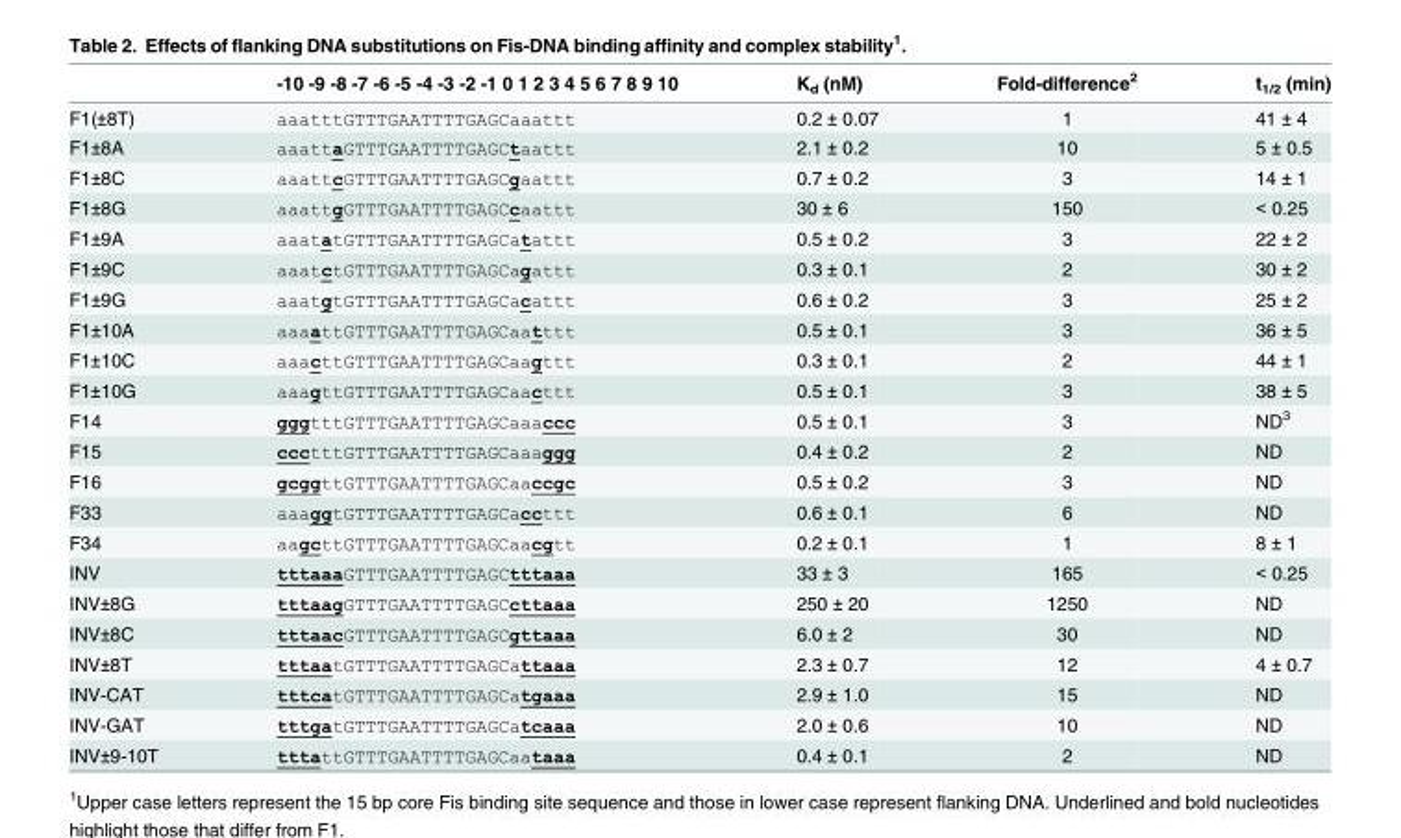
<table><thead><tr><td></td><td>-10 -9 -8 -7 -6 -5 -4 -3 -2 -1 0 1 2 3 4 5 6 7 8 9 10</td><td>K<sub>d</sub> (nM)</td><td>Fold-difference<sup>2</sup></td><td>t<sub>1/2</sub> (min)</td></tr></thead><tbody><tr><td>F1(±8T)</td><td>aaatttGTTTGAATTTTGAGCaaattt</td><td>0.2 ± 0.07</td><td>1</td><td>41 ± 4</td></tr><tr><td>F1±8A</td><td>aaattaGTTTGAATTTTGAGCtaattt</td><td>2.1 ± 0.2</td><td>10</td><td>5 ± 0.5</td></tr><tr><td>F1±8C</td><td>aaattcGTTTGAATTTTGAGCgaattt</td><td>0.7 ± 0.2</td><td>3</td><td>14 ± 1</td></tr><tr><td>F1±8G</td><td>aaattgGTTTGAATTTTGAGCcaattt</td><td>30 ± 6</td><td>150</td><td>&lt; 0.25</td></tr><tr><td>F1±9A</td><td>aaatatGTTTGAATTTTGAGCatattt</td><td>0.5 ± 0.2</td><td>3</td><td>22 ± 2</td></tr><tr><td>F1±9C</td><td>aaatctGTTTGAATTTTGAGCagattt</td><td>0.3 ± 0.1</td><td>2</td><td>30 ± 2</td></tr><tr><td>F1±9G</td><td>aaatgtGTTTGAATTTTGAGCacattt</td><td>0.6 ± 0.2</td><td>3</td><td>25 ± 2</td></tr><tr><td>F1±10A</td><td>aaaattGTTTGAATTTTGAGCaatttt</td><td>0.5 ± 0.1</td><td>3</td><td>36 ± 5</td></tr><tr><td>F1±10C</td><td>aaacttGTTTGAATTTTGAGCaagttt</td><td>0.3 ± 0.1</td><td>2</td><td>44 ± 1</td></tr><tr><td>F1±10G</td><td>aaagttGTTTGAATTTTGAGCaacttt</td><td>0.5 ± 0.1</td><td>3</td><td>38 ± 5</td></tr><tr><td>F14</td><td>gggtttGTTTGAATTTTGAGCaaaccc</td><td>0.5 ± 0.1</td><td>3</td><td>ND<sup>3</sup></td></tr><tr><td>F15</td><td>ccctttGTTTGAATTTTGAGCaaaggg</td><td>0.4 ± 0.2</td><td>2</td><td>ND</td></tr><tr><td>F16</td><td>gcggttGTTTGAATTTTGAGCaaccgc</td><td>0.5 ± 0.2</td><td>3</td><td>ND</td></tr><tr><td>F33</td><td>aaaggtGTTTGAATTTTGAGCaccttt</td><td>0.6 ± 0.1</td><td>6</td><td>ND</td></tr><tr><td>F34</td><td>aagcttGTTTGAATTTTGAGCaacgtt</td><td>0.2 ± 0.1</td><td>1</td><td>8 ± 1</td></tr><tr><td>INV</td><td>tttaaaGTTTGAATTTTGAGCtttaaa</td><td>33 ± 3</td><td>165</td><td>&lt; 0.25</td></tr><tr><td>INV±8G</td><td>tttaagGTTTGAATTTTGAGCcttaaa</td><td>250 ± 20</td><td>1250</td><td>ND</td></tr><tr><td>INV±8C</td><td>tttaacGTTTGAATTTTGAGCgttaaa</td><td>6.0 ± 2</td><td>30</td><td>ND</td></tr><tr><td>INV±8T</td><td>tttaatGTTTGAATTTTGAGCattaaa</td><td>2.3 ± 0.7</td><td>12</td><td>4 ± 0.7</td></tr><tr><td>INV-CAT</td><td>tttcatGTTTGAATTTTGAGCatgaaa</td><td>2.9 ± 1.0</td><td>15</td><td>ND</td></tr><tr><td>INV-GAT</td><td>tttgatGTTTGAATTTTGAGCatcaaa</td><td>2.0 ± 0.6</td><td>10</td><td>ND</td></tr><tr><td>INV±9-10T</td><td>tttattGTTTGAATTTTGAGCaataaa</td><td>0.4 ± 0.1</td><td>2</td><td>ND</td></tr></tbody></table>